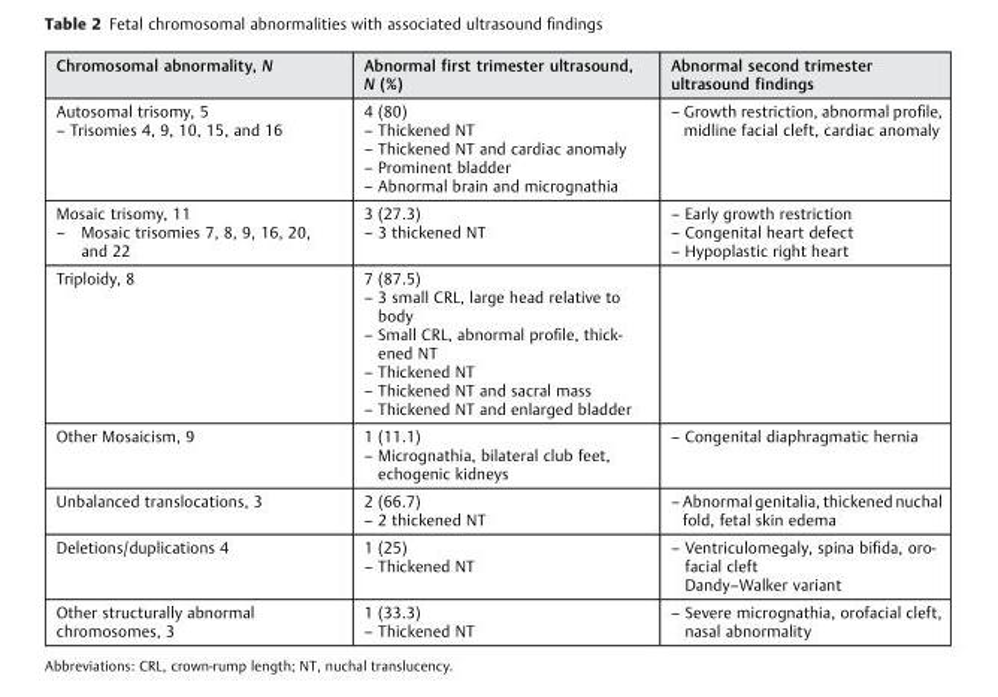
<table><thead><tr><td>Chromosomal abnormality, N</td><td>Abnormal first trimester ultrasound, N (%)</td><td>Abnormal second trimester ultrasound findings</td></tr></thead><tbody><tr><td>Autosomal trisomy, 5 – Trisomies 4, 9, 10, 15, and 16</td><td>4 (80) – Thickened NT – Thickened NT and cardiac anomaly – Prominent bladder – Abnormal brain and micrognathia</td><td>– Growth restriction, abnormal profile, midline facial cleft, cardiac anomaly</td></tr><tr><td>Mosaic trisomy, 11 – Mosaic trisomies 7, 8, 9, 16, 20, and 22</td><td>3 (27.3) – 3 thickened NT</td><td>– Early growth restriction – Congenital heart defect – Hypoplastic right heart</td></tr><tr><td>Triploidy, 8</td><td>7 (87.5) – 3 small CRL, large head relative to body – Small CRL, abnormal profile, thick- ened NT – Thickened NT – Thickened NT and sacral mass – Thickened NT and enlarged bladder</td><td></td></tr><tr><td>Other Mosaicism, 9</td><td>1 (11.1) – Micrognathia, bilateral club feet, echogenic kidneys</td><td>– Congenital diaphragmatic hernia</td></tr><tr><td>Unbalanced translocations, 3</td><td>2 (66.7) – 2 thickened NT</td><td>– Abnormal genitalia, thickened nuchal fold, fetal skin edema</td></tr><tr><td>Deletions/duplications 4</td><td>1 (25) – Thickened NT</td><td>– Ventriculomegaly, spina bifida, oro- facial cleft Dandy–Walker variant</td></tr><tr><td>Other structurally abnormal chromosomes, 3</td><td>1 (33.3) – Thickened NT</td><td>– Severe micrognathia, orofacial cleft, nasal abnormality</td></tr></tbody></table>